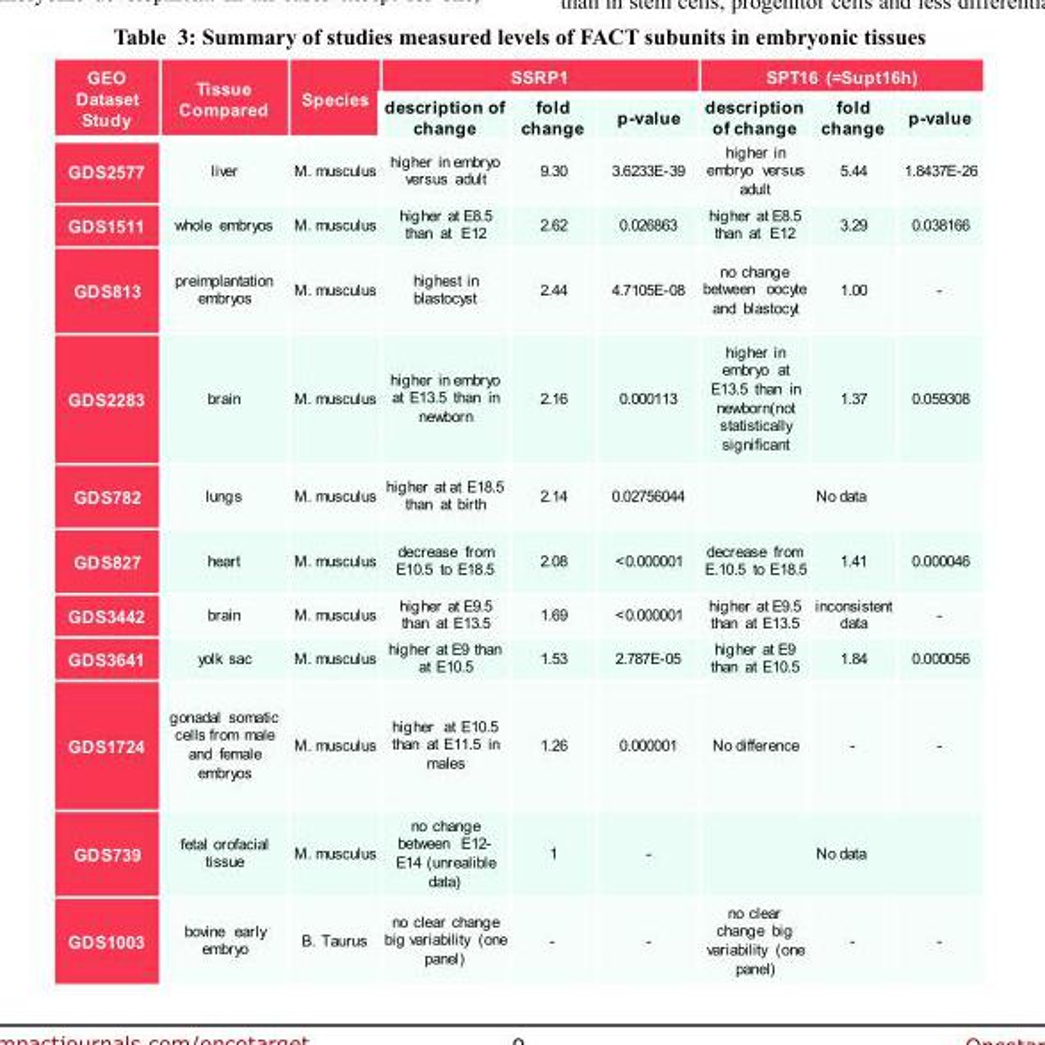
<table><thead><tr><td rowspan="2">GEO Dataset Study</td><td rowspan="2">Tissue Compared</td><td rowspan="2">Species</td><td colspan="3">SSRP1</td><td colspan="3">SPT16 (=Supt16h)</td></tr><tr><td>description of change</td><td>fold change</td><td>p-value</td><td>description of change</td><td>fold change</td><td>p-value</td></tr></thead><tbody><tr><td>GDS2577</td><td>liver</td><td>M. musculus</td><td>higher in embryo versus adult</td><td>9.30</td><td>3.6233E-39</td><td>higher in embryo versus adult</td><td>5.44</td><td>1.8437E-26</td></tr><tr><td>GDS1511</td><td>whole embryos</td><td>M. musculus</td><td>higher at E8.5 than at E12</td><td>2.62</td><td>0.026863</td><td>higher at E8.5 than at E12</td><td>3.29</td><td>0.038166</td></tr><tr><td>GDS813</td><td>preimplantation embryos</td><td>M. musculus</td><td>highest in blastocyst</td><td>2.44</td><td>4.7105E-08</td><td>no change between oocyte and blastocyt</td><td>1.00</td><td>-</td></tr><tr><td>GDS2283</td><td>brain</td><td>M. musculus</td><td>higher in embryo at E13.5 than in newborn</td><td>2.16</td><td>0.000113</td><td>higher in embryo at E13.5 than in newborn(not statistically significant</td><td>1.37</td><td>0.059308</td></tr><tr><td>GDS782</td><td>lungs</td><td>M. musculus</td><td>higher at at E18.5 than at birth</td><td>2.14</td><td>0.02756044</td><td colspan="3">No data</td></tr><tr><td>GDS827</td><td>heart</td><td>M. musculus</td><td>decrease from E10.5 to E18.5</td><td>2.08</td><td>&lt;0.000001</td><td>decrease from E.10.5 to E18.5</td><td>1.41</td><td>0.000046</td></tr><tr><td>GDS3442</td><td>brain</td><td>M. musculus</td><td>higher at E9.5 than at E13.5</td><td>1.69</td><td>&lt;0.000001</td><td>higher at E9.5 than at E13.5</td><td>inconsistent data</td><td>-</td></tr><tr><td>GDS3641</td><td>yolk sac</td><td>M. musculus</td><td>higher at E9 than at E10.5</td><td>1.53</td><td>2.787E-05</td><td>higher at E9 than at E10.5</td><td>1.84</td><td>0.000056</td></tr><tr><td>GDS1724</td><td>gonadal somatic cells from male and female embryos</td><td>M. musculus</td><td>higher at E10.5 than at E11.5 in males</td><td>1.26</td><td>0.000001</td><td>No difference</td><td>-</td><td>-</td></tr><tr><td>GDS739</td><td>fetal orofacial tissue</td><td>M. musculus</td><td>no change between E12- E14 (unrealible data)</td><td>1</td><td>-</td><td colspan="3">No data</td></tr><tr><td>GDS1003</td><td>bovine early embryo</td><td>B. Taurus</td><td>no clear change big variability (one panel)</td><td>-</td><td>-</td><td>no clear change big variability (one panel)</td><td>-</td><td>-</td></tr></tbody></table>